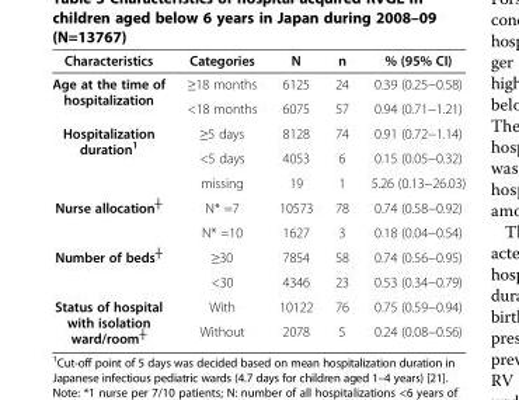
<table><thead><tr><td>Characteristics</td><td>Categories</td><td>N</td><td>n</td><td>% (95% CI)</td></tr></thead><tbody><tr><td rowspan="2">Age at the time of hospitalization</td><td>≥18 months</td><td>6125</td><td>24</td><td>0.39 (0.25−0.58)</td></tr><tr><td>&lt;18 months</td><td>6075</td><td>57</td><td>0.94 (0.71−1.21)</td></tr><tr><td rowspan="3">Hospitalization duration<sup>1</sup></td><td>≥5 days</td><td>8128</td><td>74</td><td>0.91 (0.72−1.14)</td></tr><tr><td>&lt;5 days</td><td>4053</td><td>6</td><td>0.15 (0.05−0.32)</td></tr><tr><td>missing</td><td>19</td><td>1</td><td>5.26 (0.13−26.03)</td></tr><tr><td rowspan="2">Nurse allocation<sup>┼</sup></td><td>N* =7</td><td>10573</td><td>78</td><td>0.74 (0.58−0.92)</td></tr><tr><td>N* =10</td><td>1627</td><td>3</td><td>0.18 (0.04−0.54)</td></tr><tr><td rowspan="2">Number of beds<sup>┼</sup></td><td>≥30</td><td>7854</td><td>58</td><td>0.74 (0.56−0.95)</td></tr><tr><td>&lt;30</td><td>4346</td><td>23</td><td>0.53 (0.34−0.79)</td></tr><tr><td rowspan="2">Status of hospital with isolation ward/room<sup>┼</sup></td><td>With</td><td>10122</td><td>76</td><td>0.75 (0.59−0.94)</td></tr><tr><td>Without</td><td>2078</td><td>5</td><td>0.24 (0.08−0.56)</td></tr></tbody></table>